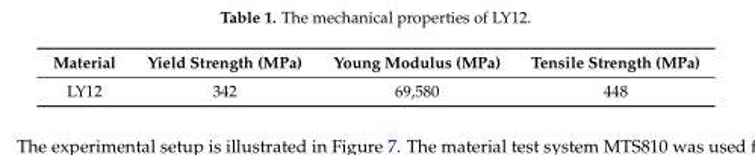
<table><thead><tr><td>Material</td><td>Yield Strength (MPa)</td><td>Young Modulus (MPa)</td><td>Tensile Strength (MPa)</td></tr></thead><tbody><tr><td>LY12</td><td>342</td><td>69,580</td><td>448</td></tr></tbody></table>